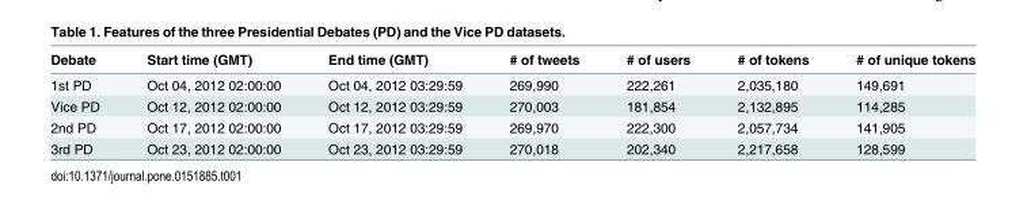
<table><thead><tr><td>Debate</td><td>Start time (GMT)</td><td>End time (GMT)</td><td># of tweets</td><td># of users</td><td># of tokens</td><td># of unique tokens</td></tr></thead><tbody><tr><td>1st PD</td><td>Oct 04, 2012 02:00:00</td><td>Oct 04, 2012 03:29:59</td><td>269,990</td><td>222,261</td><td>2,035,180</td><td>149,691</td></tr><tr><td>Vice PD</td><td>Oct 12, 2012 02:00:00</td><td>Oct 12, 2012 03:29:59</td><td>270,003</td><td>181,854</td><td>2,132,895</td><td>114,285</td></tr><tr><td>2nd PD</td><td>Oct 17, 2012 02:00:00</td><td>Oct 17, 2012 03:29:59</td><td>269,970</td><td>222,300</td><td>2,057,734</td><td>141,905</td></tr><tr><td>3rd PD</td><td>Oct 23, 2012 02:00:00</td><td>Oct 23, 2012 03:29:59</td><td>270,018</td><td>202,340</td><td>2,217,658</td><td>128,599</td></tr></tbody></table>